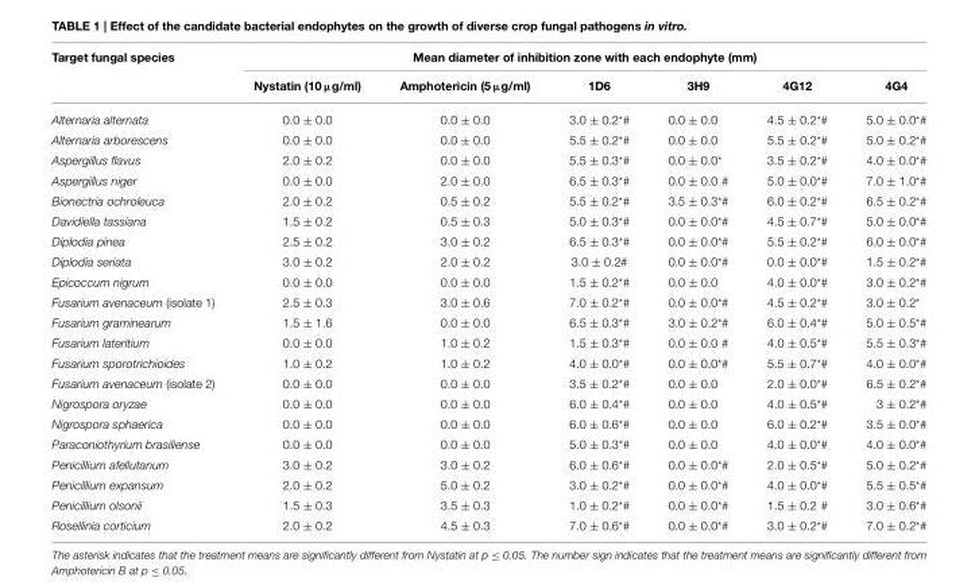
<table><thead><tr><td rowspan="2">Target fungal species</td><td colspan="6">Mean diameter of inhibition zone with each endophyte (mm)</td></tr><tr><td>Nystatin (10 µg/ml)</td><td>Amphotericin (5 µg/ml)</td><td>1D6</td><td>3H9</td><td>4G12</td><td>4G4</td></tr></thead><tbody><tr><td>Alternaria alternata</td><td>0.0 ± 0.0</td><td>0.0 ± 0.0</td><td>3.0 ± 0.2*#</td><td>0.0 ± 0.0</td><td>4.5 ± 0.2*#</td><td>5.0 ± 0.0*#</td></tr><tr><td>Alternaria arborescens</td><td>0.0 ± 0.0</td><td>0.0 ± 0.0</td><td>5.5 ± 0.2*#</td><td>0.0 ± 0.0</td><td>5.5 ± 0.2*#</td><td>5.0 ± 0.2*#</td></tr><tr><td>Aspergillus flavus</td><td>2.0 ± 0.2</td><td>0.0 ± 0.0</td><td>5.5 ± 0.3*#</td><td>0.0 ± 0.0*</td><td>3.5 ± 0.2*#</td><td>4.0 ± 0.0*#</td></tr><tr><td>Aspergillus niger</td><td>0.0 ± 0.0</td><td>2.0 ± 0.0</td><td>6.5 ± 0.3*#</td><td>0.0 ± 0.0 #</td><td>5.0 ± 0.0*#</td><td>7.0 ± 1.0*#</td></tr><tr><td>Bionectria ochroleuca</td><td>2.0 ± 0.2</td><td>0.5 ± 0.2</td><td>5.5 ± 0.2*#</td><td>3.5 ± 0.3*#</td><td>6.0 ± 0.2*#</td><td>6.5 ± 0.2*#</td></tr><tr><td>Davidiella tassiana</td><td>1.5 ± 0.2</td><td>0.5 ± 0.3</td><td>5.0 ± 0.3*#</td><td>0.0 ± 0.0*#</td><td>4.5 ± 0.7*#</td><td>5.0 ± 0.0*#</td></tr><tr><td>Diplodia pinea</td><td>2.5 ± 0.2</td><td>3.0 ± 0.2</td><td>6.5 ± 0.3*#</td><td>0.0 ± 0.0*#</td><td>5.5 ± 0.2*#</td><td>6.0 ± 0.0*#</td></tr><tr><td>Diplodia seriata</td><td>3.0 ± 0.2</td><td>2.0 ± 0.2</td><td>3.0 ± 0.2#</td><td>0.0 ± 0.0*#</td><td>0.0 ± 0.0*#</td><td>1.5 ± 0.2*#</td></tr><tr><td>Epicoccum nigrum</td><td>0.0 ± 0.0</td><td>0.0 ± 0.0</td><td>1.5 ± 0.2*#</td><td>0.0 ± 0.0</td><td>4.0 ± 0.0*#</td><td>3.0 ± 0.2*#</td></tr><tr><td>Fusarium avenaceum (isolate 1)</td><td>2.5 ± 0.3</td><td>3.0 ± 0.6</td><td>7.0 ± 0.2*#</td><td>0.0 ± 0.0*#</td><td>4.5 ± 0.2*#</td><td>3.0 ± 0.2*</td></tr><tr><td>Fusarium graminearum</td><td>1.5 ± 1.6</td><td>0.0 ± 0.0</td><td>6.5 ± 0.3*#</td><td>3.0 ± 0.2*#</td><td>6.0 ± 0.4*#</td><td>5.0 ± 0.5*#</td></tr><tr><td>Fusarium lateritium</td><td>0.0 ± 0.0</td><td>1.0 ± 0.2</td><td>1.5 ± 0.3*#</td><td>0.0 ± 0.0 #</td><td>4.0 ± 0.5*#</td><td>5.5 ± 0.3*#</td></tr><tr><td>Fusarium sporotrichioides</td><td>1.0 ± 0.2</td><td>1.0 ± 0.2</td><td>4.0 ± 0.0*#</td><td>0.0 ± 0.0*#</td><td>5.5 ± 0.7*#</td><td>4.0 ± 0.0*#</td></tr><tr><td>Fusarium avenaceum (isolate 2)</td><td>0.0 ± 0.0</td><td>0.0 ± 0.0</td><td>3.5 ± 0.2*#</td><td>0.0 ± 0.0</td><td>2.0 ± 0.0*#</td><td>6.5 ± 0.2*#</td></tr><tr><td>Nigrospora oryzae</td><td>0.0 ± 0.0</td><td>0.0 ± 0.0</td><td>6.0 ± 0.4*#</td><td>0.0 ± 0.0</td><td>4.0 ± 0.5*#</td><td>3 ± 0.2*#</td></tr><tr><td>Nigrospora sphaerica</td><td>0.0 ± 0.0</td><td>0.0 ± 0.0</td><td>6.0 ± 0.6*#</td><td>0.0 ± 0.0</td><td>6.0 ± 0.2*#</td><td>3.5 ± 0.0*#</td></tr><tr><td>Paraconiothyrium brasiliense</td><td>0.0 ± 0.0</td><td>0.0 ± 0.0</td><td>5.0 ± 0.3*#</td><td>0.0 ± 0.0</td><td>4.0 ± 0.0*#</td><td>4.0 ± 0.0*#</td></tr><tr><td>Penicillium afellutanum</td><td>3.0 ± 0.2</td><td>3.0 ± 0.2</td><td>6.0 ± 0.6*#</td><td>0.0 ± 0.0*#</td><td>2.0 ± 0.5*#</td><td>5.0 ± 0.2*#</td></tr><tr><td>Penicillium expansum</td><td>2.0 ± 0.2</td><td>5.0 ± 0.2</td><td>3.0 ± 0.2*#</td><td>0.0 ± 0.0*#</td><td>4.0 ± 0.0*#</td><td>5.5 ± 0.5*#</td></tr><tr><td>Penicillium olsonii</td><td>1.5 ± 0.3</td><td>3.5 ± 0.3</td><td>1.0 ± 0.2*#</td><td>0.0 ± 0.0*#</td><td>1.5 ± 0.2 #</td><td>3.0 ± 0.6*#</td></tr><tr><td>Rosellinia corticium</td><td>2.0 ± 0.2</td><td>4.5 ± 0.3</td><td>7.0 ± 0.6*#</td><td>0.0 ± 0.0*#</td><td>3.0 ± 0.2*#</td><td>7.0 ± 0.2*#</td></tr></tbody></table>